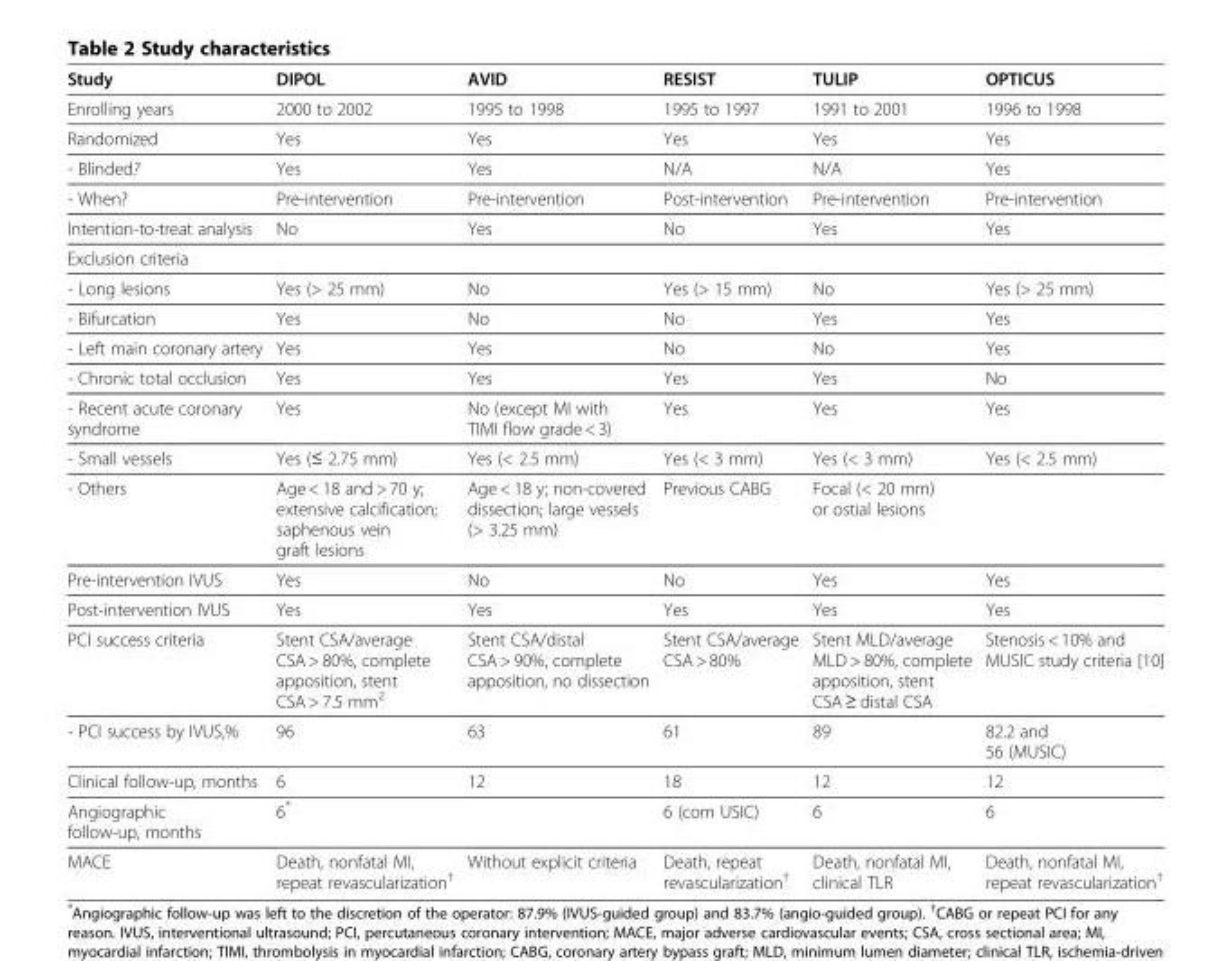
<table><thead><tr><td>Study</td><td>DIPOL</td><td>AVID</td><td>RESIST</td><td>TULIP</td><td>OPTICUS</td></tr></thead><tbody><tr><td>Enrolling years</td><td>2000 to 2002</td><td>1995 to 1998</td><td>1995 to 1997</td><td>1991 to 2001</td><td>1996 to 1998</td></tr><tr><td>Randomized</td><td>Yes</td><td>Yes</td><td>Yes</td><td>Yes</td><td>Yes</td></tr><tr><td>- Blinded?</td><td>Yes</td><td>Yes</td><td>N/A</td><td>N/A</td><td>Yes</td></tr><tr><td>- When?</td><td>Pre-intervention</td><td>Pre-intervention</td><td>Post-intervention</td><td>Pre-intervention</td><td>Pre-intervention</td></tr><tr><td>Intention-to-treat analysis</td><td>No</td><td>Yes</td><td>No</td><td>Yes</td><td>Yes</td></tr><tr><td colspan="6">Exclusion criteria</td></tr><tr><td>- Long lesions</td><td>Yes (&gt; 25 mm)</td><td>No</td><td>Yes (&gt; 15 mm)</td><td>No</td><td>Yes (&gt; 25 mm)</td></tr><tr><td>- Bifurcation</td><td>Yes</td><td>No</td><td>No</td><td>Yes</td><td>Yes</td></tr><tr><td>- Left main coronary artery</td><td>Yes</td><td>Yes</td><td>No</td><td>No</td><td>Yes</td></tr><tr><td>- Chronic total occlusion</td><td>Yes</td><td>Yes</td><td>Yes</td><td>Yes</td><td>No</td></tr><tr><td>- Recent acute coronary syndrome</td><td>Yes</td><td>No (except MI with TIMI flow grade &lt; 3)</td><td>Yes</td><td>Yes</td><td>Yes</td></tr><tr><td>- Small vessels</td><td>Yes (≤ 2.75 mm)</td><td>Yes (&lt; 2.5 mm)</td><td>Yes (&lt; 3 mm)</td><td>Yes (&lt; 3 mm)</td><td>Yes (&lt; 2.5 mm)</td></tr><tr><td>- Others</td><td>Age &lt; 18 and &gt; 70 y; extensive calcification; saphenous vein graft lesions</td><td>Age &lt; 18 y; non-covered dissection; large vessels (&gt; 3.25 mm)</td><td>Previous CABG</td><td>Focal (&lt; 20 mm) or ostial lesions</td><td></td></tr><tr><td>Pre-intervention IVUS</td><td>Yes</td><td>No</td><td>No</td><td>Yes</td><td>Yes</td></tr><tr><td>Post-intervention IVUS</td><td>Yes</td><td>Yes</td><td>Yes</td><td>Yes</td><td>Yes</td></tr><tr><td>PCI success criteria</td><td>Stent CSA/average CSA &gt; 80%, complete apposition, stent CSA &gt; 7.5 mm<sup>2</sup></td><td>Stent CSA/distal CSA &gt; 90%, complete apposition, no dissection</td><td>Stent CSA/average CSA &gt; 80%</td><td>Stent MLD/average MLD &gt; 80%, complete apposition, stent CSA ≥ distal CSA</td><td>Stenosis &lt; 10% and MUSIC study criteria [10]</td></tr><tr><td>- PCI success by IVUS,%</td><td>96</td><td>63</td><td>61</td><td>89</td><td>82.2 and 56 (MUSIC)</td></tr><tr><td>Clinical follow-up, months</td><td>6</td><td>12</td><td>18</td><td>12</td><td>12</td></tr><tr><td>Angiographic follow-up, months</td><td>6*</td><td></td><td>6 (com USIC)</td><td>6</td><td>6</td></tr><tr><td>MACE</td><td>Death, nonfatal MI, repeat revascularization<sup>†</sup></td><td>Without explicit criteria</td><td>Death, repeat revascularization<sup>†</sup></td><td>Death, nonfatal MI, clinical TLR</td><td>Death, nonfatal MI, repeat revascularization<sup>†</sup></td></tr></tbody></table>